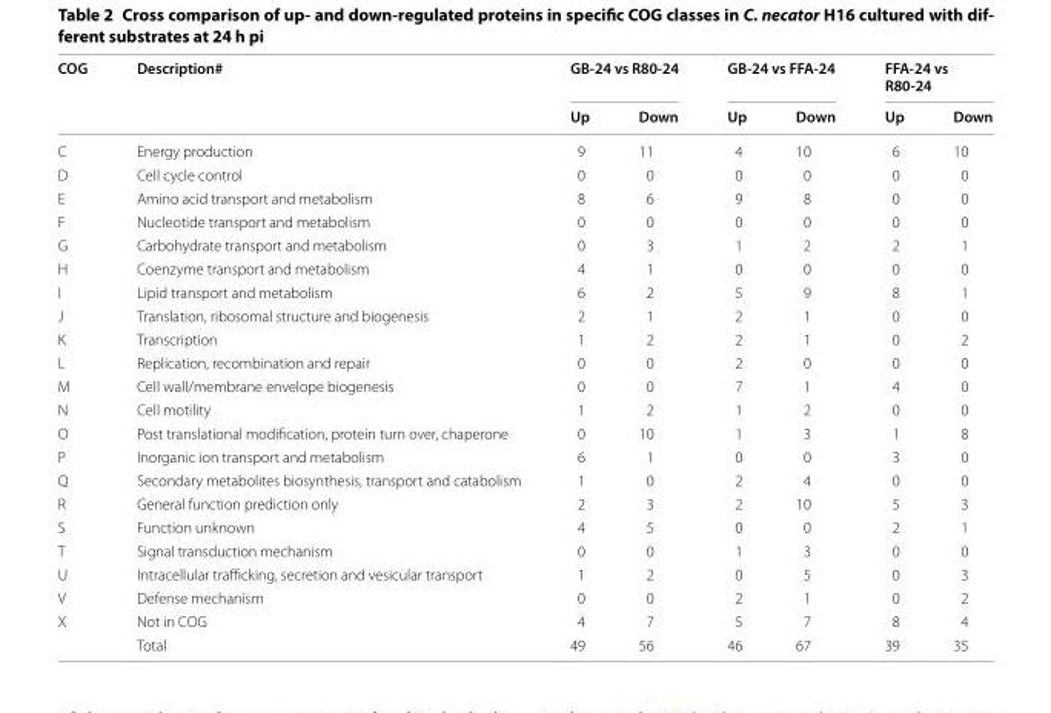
<table><thead><tr><td rowspan="2">COG</td><td rowspan="2">Description#</td><td colspan="2">GB-24 vs R80-24</td><td colspan="2">GB-24 vs FFA-24</td><td colspan="2">FFA-24 vs R80-24</td></tr><tr><td>Up</td><td>Down</td><td>Up</td><td>Down</td><td>Up</td><td>Down</td></tr></thead><tbody><tr><td>C</td><td>Energy production</td><td>9</td><td>11</td><td>4</td><td>10</td><td>6</td><td>10</td></tr><tr><td>D</td><td>Cell cycle control</td><td>0</td><td>0</td><td>0</td><td>0</td><td>0</td><td>0</td></tr><tr><td>E</td><td>Amino acid transport and metabolism</td><td>8</td><td>6</td><td>9</td><td>8</td><td>0</td><td>0</td></tr><tr><td>F</td><td>Nucleotide transport and metabolism</td><td>0</td><td>0</td><td>0</td><td>0</td><td>0</td><td>0</td></tr><tr><td>G</td><td>Carbohydrate transport and metabolism</td><td>0</td><td>3</td><td>1</td><td>2</td><td>2</td><td>1</td></tr><tr><td>H</td><td>Coenzyme transport and metabolism</td><td>4</td><td>1</td><td>0</td><td>0</td><td>0</td><td>0</td></tr><tr><td>I</td><td>Lipid transport and metabolism</td><td>6</td><td>2</td><td>5</td><td>9</td><td>8</td><td>1</td></tr><tr><td>J</td><td>Translation, ribosomal structure and biogenesis</td><td>2</td><td>1</td><td>2</td><td>1</td><td>0</td><td>0</td></tr><tr><td>K</td><td>Transcription</td><td>1</td><td>2</td><td>2</td><td>1</td><td>0</td><td>2</td></tr><tr><td>L</td><td>Replication, recombination and repair</td><td>0</td><td>0</td><td>2</td><td>0</td><td>0</td><td>0</td></tr><tr><td>M</td><td>Cell wall/membrane envelope biogenesis</td><td>0</td><td>0</td><td>7</td><td>1</td><td>4</td><td>0</td></tr><tr><td>N</td><td>Cell motility</td><td>1</td><td>2</td><td>1</td><td>2</td><td>0</td><td>0</td></tr><tr><td>O</td><td>Post translational modification, protein turn over, chaperone</td><td>0</td><td>10</td><td>1</td><td>3</td><td>1</td><td>8</td></tr><tr><td>P</td><td>Inorganic ion transport and metabolism</td><td>6</td><td>1</td><td>0</td><td>0</td><td>3</td><td>0</td></tr><tr><td>Q</td><td>Secondary metabolites biosynthesis, transport and catabolism</td><td>1</td><td>0</td><td>2</td><td>4</td><td>0</td><td>0</td></tr><tr><td>R</td><td>General function prediction only</td><td>2</td><td>3</td><td>2</td><td>10</td><td>5</td><td>3</td></tr><tr><td>S</td><td>Function unknown</td><td>4</td><td>5</td><td>0</td><td>0</td><td>2</td><td>1</td></tr><tr><td>T</td><td>Signal transduction mechanism</td><td>0</td><td>0</td><td>1</td><td>3</td><td>0</td><td>0</td></tr><tr><td>U</td><td>Intracellular trafficking, secretion and vesicular transport</td><td>1</td><td>2</td><td>0</td><td>5</td><td>0</td><td>3</td></tr><tr><td>V</td><td>Defense mechanism</td><td>0</td><td>0</td><td>2</td><td>1</td><td>0</td><td>2</td></tr><tr><td rowspan="2">X</td><td>Not in COG</td><td>4</td><td>7</td><td>5</td><td>7</td><td>8</td><td>4</td></tr><tr><td>Total</td><td>49</td><td>56</td><td>46</td><td>67</td><td>39</td><td>35</td></tr></tbody></table>